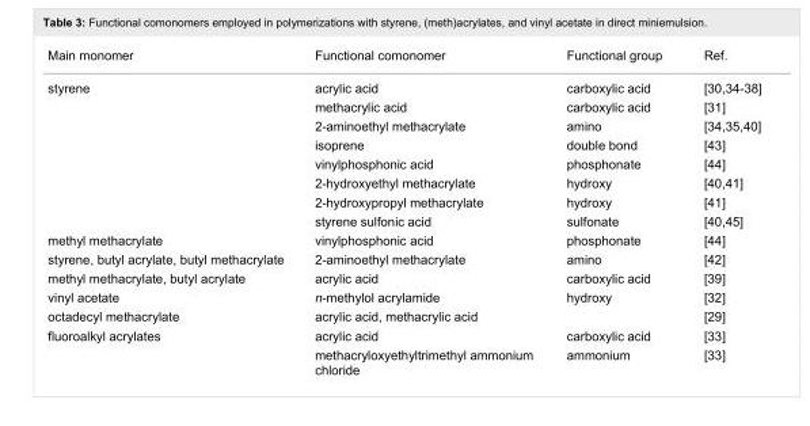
<table><tbody><tr><td>Main monomer</td><td>Functional comonomer</td><td>Functional group</td><td>Ref.</td></tr><tr><td rowspan="8">styrene</td><td>acrylic acid</td><td>carboxylic acid</td><td>[30,34-38]</td></tr><tr><td>methacrylic acid</td><td>carboxylic acid</td><td>[31]</td></tr><tr><td>2-aminoethyl methacrylate</td><td>amino</td><td>[34,35,40]</td></tr><tr><td>isoprene</td><td>double bond</td><td>[43]</td></tr><tr><td>vinylphosphonic acid</td><td>phosphonate</td><td>[44]</td></tr><tr><td>2-hydroxyethyl methacrylate</td><td>hydroxy</td><td>[40–41]</td></tr><tr><td>2-hydroxypropyl methacrylate</td><td>hydroxy</td><td>[41]</td></tr><tr><td>styrene sulfonic acid</td><td>sulfonate</td><td>[40,45]</td></tr><tr><td>methyl methacrylate</td><td>vinylphosphonic acid</td><td>phosphonate</td><td>[44]</td></tr><tr><td>styrene, butyl acrylate, butyl methacrylate</td><td>2-aminoethyl methacrylate</td><td>amino</td><td>[42]</td></tr><tr><td>methyl methacrylate, butyl acrylate</td><td>acrylic acid</td><td>carboxylic acid</td><td>[39]</td></tr><tr><td>vinyl acetate</td><td>n-methylol acrylamide</td><td>hydroxy</td><td>[32]</td></tr><tr><td>octadecyl methacrylate</td><td>acrylic acid, methacrylic acid</td><td></td><td>[29]</td></tr><tr><td rowspan="2">fluoroalkyl acrylates</td><td>acrylic acid</td><td>carboxylic acid</td><td>[33]</td></tr><tr><td>methacryloxyethyltrimethyl ammonium chloride</td><td>ammonium</td><td>[33]</td></tr></tbody></table>